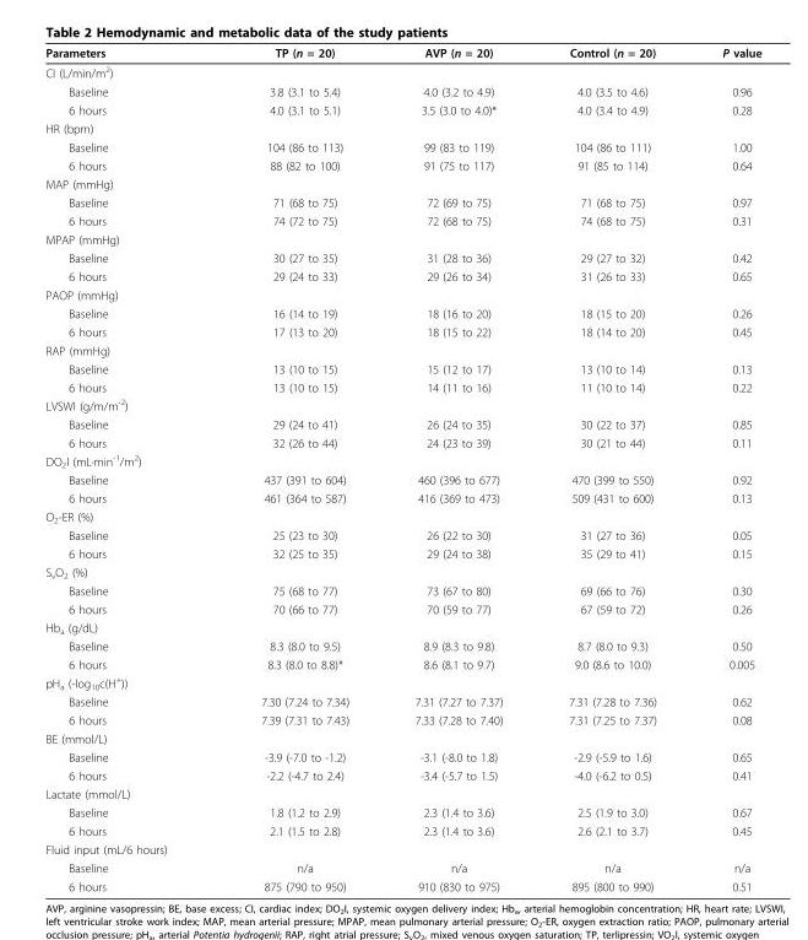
<table><thead><tr><td>Parameters</td><td>TP (n = 20)</td><td>AVP (n = 20)</td><td>Control (n = 20)</td><td>P value</td></tr></thead><tbody><tr><td colspan="5">CI (L/min/m<sup>2</sup>)</td></tr><tr><td>Baseline</td><td>3.8 (3.1 to 5.4)</td><td>4.0 (3.2 to 4.9)</td><td>4.0 (3.5 to 4.6)</td><td>0.96</td></tr><tr><td>6 hours</td><td>4.0 (3.1 to 5.1)</td><td>3.5 (3.0 to 4.0)*</td><td>4.0 (3.4 to 4.9)</td><td>0.28</td></tr><tr><td colspan="5">HR (bpm)</td></tr><tr><td>Baseline</td><td>104 (86 to 113)</td><td>99 (83 to 119)</td><td>104 (86 to 111)</td><td>1.00</td></tr><tr><td>6 hours</td><td>88 (82 to 100)</td><td>91 (75 to 117)</td><td>91 (85 to 114)</td><td>0.64</td></tr><tr><td colspan="5">MAP (mmHg)</td></tr><tr><td>Baseline</td><td>71 (68 to 75)</td><td>72 (69 to 75)</td><td>71 (68 to 75)</td><td>0.97</td></tr><tr><td>6 hours</td><td>74 (72 to 75)</td><td>72 (68 to 75)</td><td>74 (68 to 75)</td><td>0.31</td></tr><tr><td colspan="5">MPAP (mmHg)</td></tr><tr><td>Baseline</td><td>30 (27 to 35)</td><td>31 (28 to 36)</td><td>29 (27 to 32)</td><td>0.42</td></tr><tr><td>6 hours</td><td>29 (24 to 33)</td><td>29 (26 to 34)</td><td>31 (26 to 33)</td><td>0.65</td></tr><tr><td colspan="5">PAOP (mmHg)</td></tr><tr><td>Baseline</td><td>16 (14 to 19)</td><td>18 (16 to 20)</td><td>18 (15 to 20)</td><td>0.26</td></tr><tr><td>6 hours</td><td>17 (13 to 20)</td><td>18 (15 to 22)</td><td>18 (14 to 20)</td><td>0.45</td></tr><tr><td colspan="5">RAP (mmHg)</td></tr><tr><td>Baseline</td><td>13 (10 to 15)</td><td>15 (12 to 17)</td><td>13 (10 to 14)</td><td>0.13</td></tr><tr><td>6 hours</td><td>13 (10 to 15)</td><td>14 (11 to 16)</td><td>11 (10 to 14)</td><td>0.22</td></tr><tr><td colspan="5">LVSWI (g/m/m<sup>-2</sup>)</td></tr><tr><td>Baseline</td><td>29 (24 to 41)</td><td>26 (24 to 35)</td><td>30 (22 to 37)</td><td>0.85</td></tr><tr><td>6 hours</td><td>32 (26 to 44)</td><td>24 (23 to 39)</td><td>30 (21 to 44)</td><td>0.11</td></tr><tr><td colspan="5">DO<sub>2</sub>I (mL·min<sup>-1</sup>/m<sup>2</sup>)</td></tr><tr><td>Baseline</td><td>437 (391 to 604)</td><td>460 (396 to 677)</td><td>470 (399 to 550)</td><td>0.92</td></tr><tr><td>6 hours</td><td>461 (364 to 587)</td><td>416 (369 to 473)</td><td>509 (431 to 600)</td><td>0.13</td></tr><tr><td colspan="5">O<sub>2</sub>-ER (%)</td></tr><tr><td>Baseline</td><td>25 (23 to 30)</td><td>26 (22 to 30)</td><td>31 (27 to 36)</td><td>0.05</td></tr><tr><td>6 hours</td><td>32 (25 to 35)</td><td>29 (24 to 38)</td><td>35 (29 to 41)</td><td>0.15</td></tr><tr><td colspan="5">S<sub>v</sub>O<sub>2</sub> (%)</td></tr><tr><td>Baseline</td><td>75 (68 to 77)</td><td>73 (67 to 80)</td><td>69 (66 to 76)</td><td>0.30</td></tr><tr><td>6 hours</td><td>70 (66 to 77)</td><td>70 (59 to 77)</td><td>67 (59 to 72)</td><td>0.26</td></tr><tr><td colspan="5">Hb<sub>a</sub> (g/dL)</td></tr><tr><td>Baseline</td><td>8.3 (8.0 to 9.5)</td><td>8.9 (8.3 to 9.8)</td><td>8.7 (8.0 to 9.3)</td><td>0.50</td></tr><tr><td>6 hours</td><td>8.3 (8.0 to 8.8)*</td><td>8.6 (8.1 to 9.7)</td><td>9.0 (8.6 to 10.0)</td><td>0.005</td></tr><tr><td colspan="5">pH<sub>a</sub> (-log<sub>10</sub>c(H<sup>+</sup>))</td></tr><tr><td>Baseline</td><td>7.30 (7.24 to 7.34)</td><td>7.31 (7.27 to 7.37)</td><td>7.31 (7.28 to 7.36)</td><td>0.62</td></tr><tr><td>6 hours</td><td>7.39 (7.31 to 7.43)</td><td>7.33 (7.28 to 7.40)</td><td>7.31 (7.25 to 7.37)</td><td>0.08</td></tr><tr><td colspan="5">BE (mmol/L)</td></tr><tr><td>Baseline</td><td>-3.9 (-7.0 to -1.2)</td><td>-3.1 (-8.0 to 1.8)</td><td>-2.9 (-5.9 to 1.6)</td><td>0.65</td></tr><tr><td>6 hours</td><td>-2.2 (-4.7 to 2.4)</td><td>-3.4 (-5.7 to 1.5)</td><td>-4.0 (-6.2 to 0.5)</td><td>0.41</td></tr><tr><td colspan="5">Lactate (mmol/L)</td></tr><tr><td>Baseline</td><td>1.8 (1.2 to 2.9)</td><td>2.3 (1.4 to 3.6)</td><td>2.5 (1.9 to 3.0)</td><td>0.67</td></tr><tr><td>6 hours</td><td>2.1 (1.5 to 2.8)</td><td>2.3 (1.4 to 3.6)</td><td>2.6 (2.1 to 3.7)</td><td>0.45</td></tr><tr><td colspan="5">Fluid input (mL/6 hours)</td></tr><tr><td>Baseline</td><td>n/a</td><td>n/a</td><td>n/a</td><td>n/a</td></tr><tr><td>6 hours</td><td>875 (790 to 950)</td><td>910 (830 to 975)</td><td>895 (800 to 990)</td><td>0.51</td></tr></tbody></table>